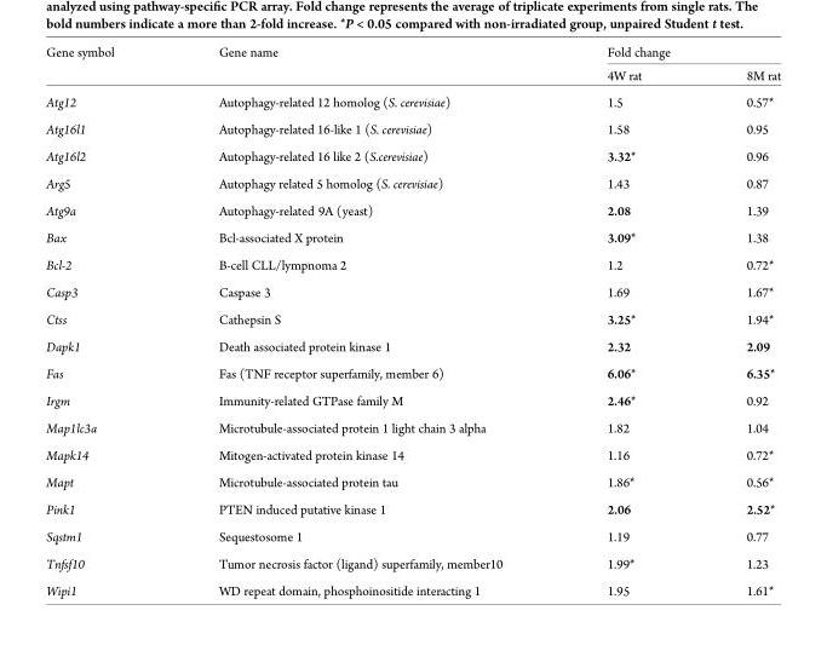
<table><thead><tr><td rowspan="2">Gene symbol</td><td rowspan="2">Gene name</td><td colspan="2">Fold change</td></tr><tr><td>4W rat</td><td>8M rat</td></tr></thead><tbody><tr><td>Atg12</td><td>Autophagy-related 12 homolog (S. cerevisiae)</td><td>1.5</td><td>0.57*</td></tr><tr><td>Atg16l1</td><td>Autophagy-related 16-like 1 (S. cerevisiae)</td><td>1.58</td><td>0.95</td></tr><tr><td>Atg16l2</td><td>Autophagy-related 16 like 2 (S.cerevisiae)</td><td>3.32*</td><td>0.96</td></tr><tr><td>Arg5</td><td>Autophagy related 5 homolog (S. cerevisiae)</td><td>1.43</td><td>0.87</td></tr><tr><td>Atg9a</td><td>Autophagy-related 9A (yeast)</td><td>2.08</td><td>1.39</td></tr><tr><td>Bax</td><td>Bcl-associated X protein</td><td>3.09*</td><td>1.38</td></tr><tr><td>Bcl-2</td><td>B-cell CLL/lympnoma 2</td><td>1.2</td><td>0.72*</td></tr><tr><td>Casp3</td><td>Caspase 3</td><td>1.69</td><td>1.67*</td></tr><tr><td>Ctss</td><td>Cathepsin S</td><td>3.25*</td><td>1.94*</td></tr><tr><td>Dapk1</td><td>Death associated protein kinase 1</td><td>2.32</td><td>2.09</td></tr><tr><td>Fas</td><td>Fas (TNF receptor superfamily, member 6)</td><td>6.06*</td><td>6.35*</td></tr><tr><td>Irgm</td><td>Immunity-related GTPase family M</td><td>2.46*</td><td>0.92</td></tr><tr><td>Map1lc3a</td><td>Microtubule-associated protein 1 light chain 3 alpha</td><td>1.82</td><td>1.04</td></tr><tr><td>Mapk14</td><td>Mitogen-activated protein kinase 14</td><td>1.16</td><td>0.72*</td></tr><tr><td>Mapt</td><td>Microtubule-associated protein tau</td><td>1.86*</td><td>0.56*</td></tr><tr><td>Pink1</td><td>PTEN induced putative kinase 1</td><td>2.06</td><td>2.52*</td></tr><tr><td>Sqstm1</td><td>Sequestosome 1</td><td>1.19</td><td>0.77</td></tr><tr><td>Tnfsf10</td><td>Tumor necrosis factor (ligand) superfamily, member10</td><td>1.99*</td><td>1.23</td></tr><tr><td>Wipi1</td><td>WD repeat domain, phosphoinositide interacting 1</td><td>1.95</td><td>1.61*</td></tr></tbody></table>